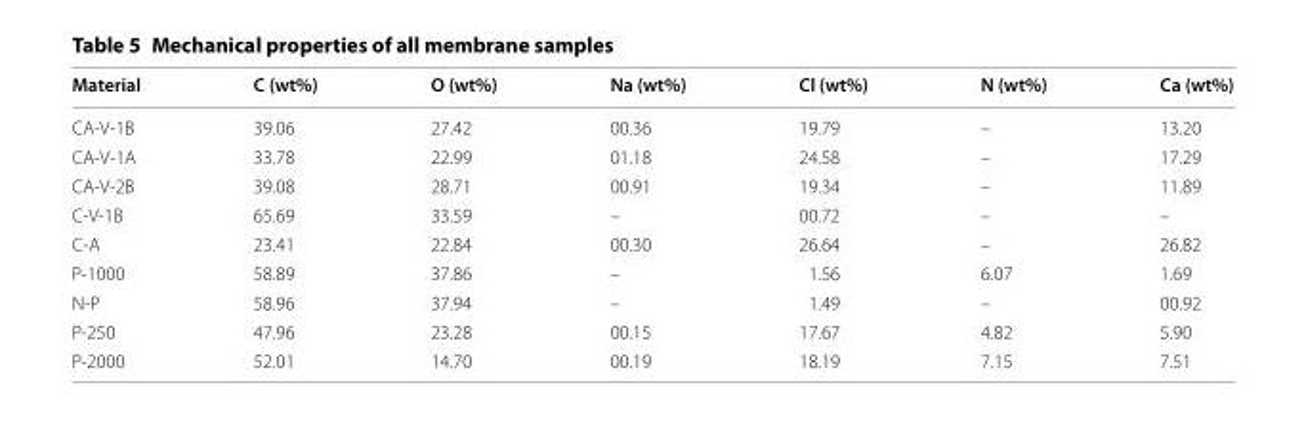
<table><thead><tr><td>Material</td><td>C (wt%)</td><td>O (wt%)</td><td>Na (wt%)</td><td>Cl (wt%)</td><td>N (wt%)</td><td>Ca (wt%)</td></tr></thead><tbody><tr><td>CA‑V‑1B</td><td>39.06</td><td>27.42</td><td>00.36</td><td>19.79</td><td>–</td><td>13.20</td></tr><tr><td>CA‑V‑1A</td><td>33.78</td><td>22.99</td><td>01.18</td><td>24.58</td><td>–</td><td>17.29</td></tr><tr><td>CA‑V‑2B</td><td>39.08</td><td>28.71</td><td>00.91</td><td>19.34</td><td>–</td><td>11.89</td></tr><tr><td>C‑V‑1B</td><td>65.69</td><td>33.59</td><td>–</td><td>00.72</td><td>–</td><td>–</td></tr><tr><td>C‑A</td><td>23.41</td><td>22.84</td><td>00.30</td><td>26.64</td><td>–</td><td>26.82</td></tr><tr><td>P‑1000</td><td>58.89</td><td>37.86</td><td>–</td><td>1.56</td><td>6.07</td><td>1.69</td></tr><tr><td>N‑P</td><td>58.96</td><td>37.94</td><td>–</td><td>1.49</td><td>–</td><td>00.92</td></tr><tr><td>P‑250</td><td>47.96</td><td>23.28</td><td>00.15</td><td>17.67</td><td>4.82</td><td>5.90</td></tr><tr><td>P‑2000</td><td>52.01</td><td>14.70</td><td>00.19</td><td>18.19</td><td>7.15</td><td>7.51</td></tr></tbody></table>